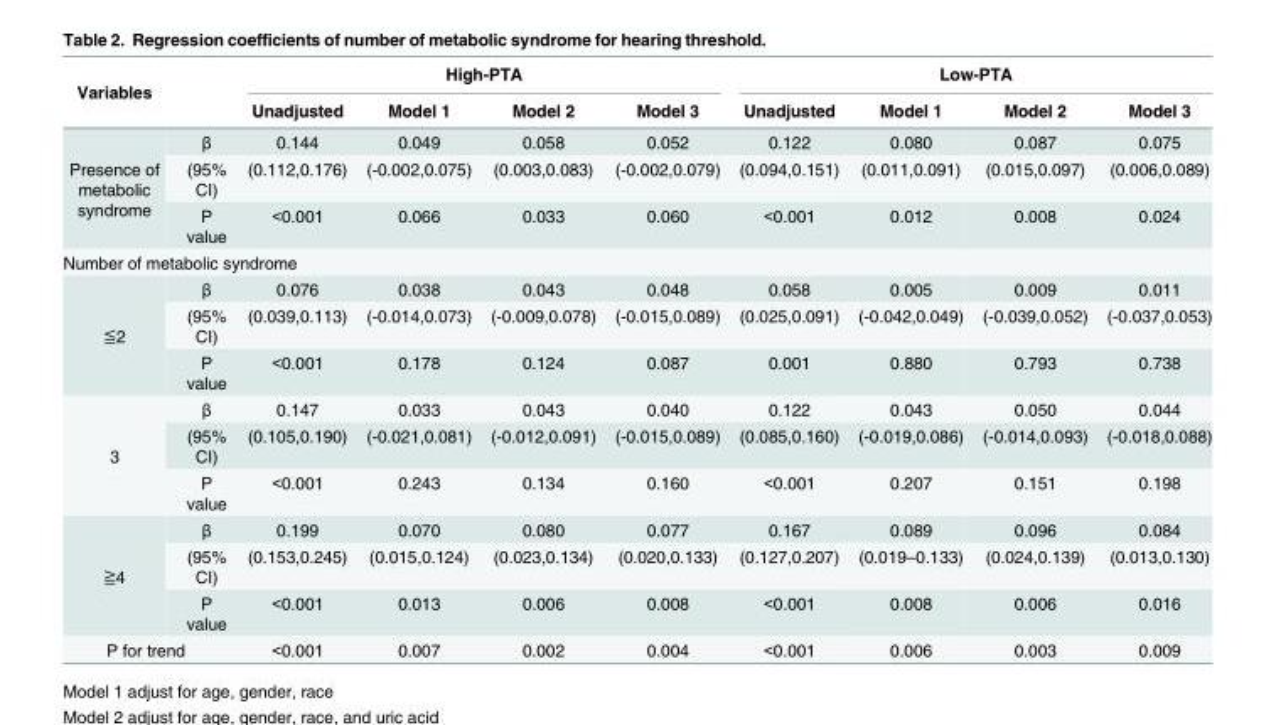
<table><thead><tr><td rowspan="2">Variables</td><td rowspan="2"></td><td colspan="4">High-PTA</td><td colspan="4">Low-PTA</td></tr><tr><td>Unadjusted</td><td>Model 1</td><td>Model 2</td><td>Model 3</td><td>Unadjusted</td><td>Model 1</td><td>Model 2</td><td>Model 3</td></tr></thead><tbody><tr><td rowspan="3">Presence of metabolic syndrome</td><td>β</td><td>0.144</td><td>0.049</td><td>0.058</td><td>0.052</td><td>0.122</td><td>0.080</td><td>0.087</td><td>0.075</td></tr><tr><td>(95% CI)</td><td>(0.112,0.176)</td><td>(-0.002,0.075)</td><td>(0.003,0.083)</td><td>(-0.002,0.079)</td><td>(0.094,0.151)</td><td>(0.011,0.091)</td><td>(0.015,0.097)</td><td>(0.006,0.089)</td></tr><tr><td>P value</td><td>&lt;0.001</td><td>0.066</td><td>0.033</td><td>0.060</td><td>&lt;0.001</td><td>0.012</td><td>0.008</td><td>0.024</td></tr><tr><td colspan="10">Number of metabolic syndrome</td></tr><tr><td rowspan="3">≦2</td><td>β</td><td>0.076</td><td>0.038</td><td>0.043</td><td>0.048</td><td>0.058</td><td>0.005</td><td>0.009</td><td>0.011</td></tr><tr><td>(95% CI)</td><td>(0.039,0.113)</td><td>(-0.014,0.073)</td><td>(-0.009,0.078)</td><td>(-0.015,0.089)</td><td>(0.025,0.091)</td><td>(-0.042,0.049)</td><td>(-0.039,0.052)</td><td>(-0.037,0.053)</td></tr><tr><td>P value</td><td>&lt;0.001</td><td>0.178</td><td>0.124</td><td>0.087</td><td>0.001</td><td>0.880</td><td>0.793</td><td>0.738</td></tr><tr><td rowspan="3">3</td><td>β</td><td>0.147</td><td>0.033</td><td>0.043</td><td>0.040</td><td>0.122</td><td>0.043</td><td>0.050</td><td>0.044</td></tr><tr><td>(95% CI)</td><td>(0.105,0.190)</td><td>(-0.021,0.081)</td><td>(-0.012,0.091)</td><td>(-0.015,0.089)</td><td>(0.085,0.160)</td><td>(-0.019,0.086)</td><td>(-0.014,0.093)</td><td>(-0.018,0.088)</td></tr><tr><td>P value</td><td>&lt;0.001</td><td>0.243</td><td>0.134</td><td>0.160</td><td>&lt;0.001</td><td>0.207</td><td>0.151</td><td>0.198</td></tr><tr><td rowspan="3">≧4</td><td>β</td><td>0.199</td><td>0.070</td><td>0.080</td><td>0.077</td><td>0.167</td><td>0.089</td><td>0.096</td><td>0.084</td></tr><tr><td>(95% CI)</td><td>(0.153,0.245)</td><td>(0.015,0.124)</td><td>(0.023,0.134)</td><td>(0.020,0.133)</td><td>(0.127,0.207)</td><td>(0.019–0.133)</td><td>(0.024,0.139)</td><td>(0.013,0.130)</td></tr><tr><td>P value</td><td>&lt;0.001</td><td>0.013</td><td>0.006</td><td>0.008</td><td>&lt;0.001</td><td>0.008</td><td>0.006</td><td>0.016</td></tr><tr><td colspan="2">P for trend</td><td>&lt;0.001</td><td>0.007</td><td>0.002</td><td>0.004</td><td>&lt;0.001</td><td>0.006</td><td>0.003</td><td>0.009</td></tr></tbody></table>